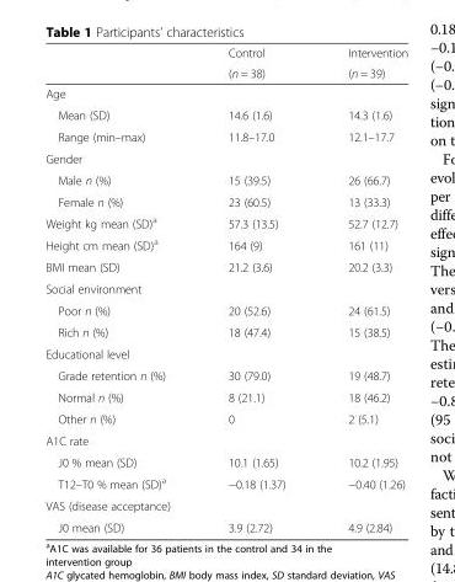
<table><thead><tr><td rowspan="2"></td><td rowspan="2">Control (n = 38)</td><td rowspan="2">Intervention (n = 39)</td></tr><tr></tr></thead><tbody><tr><td colspan="3">Age</td></tr><tr><td>Mean (SD)</td><td>14.6 (1.6)</td><td>14.3 (1.6)</td></tr><tr><td>Range (min–max)</td><td>11.8–17.0</td><td>12.1–17.7</td></tr><tr><td colspan="3">Gender</td></tr><tr><td>Male n (%)</td><td>15 (39.5)</td><td>26 (66.7)</td></tr><tr><td>Female n (%)</td><td>23 (60.5)</td><td>13 (33.3)</td></tr><tr><td>Weight kg mean (SD)<sup>a</sup></td><td>57.3 (13.5)</td><td>52.7 (12.7)</td></tr><tr><td>Height cm mean (SD)<sup>a</sup></td><td>164 (9)</td><td>161 (11)</td></tr><tr><td>BMI mean (SD)</td><td>21.2 (3.6)</td><td>20.2 (3.3)</td></tr><tr><td colspan="3">Social environment</td></tr><tr><td>Poor n (%)</td><td>20 (52.6)</td><td>24 (61.5)</td></tr><tr><td>Rich n (%)</td><td>18 (47.4)</td><td>15 (38.5)</td></tr><tr><td colspan="3">Educational level</td></tr><tr><td>Grade retention n (%)</td><td>30 (79.0)</td><td>19 (48.7)</td></tr><tr><td>Normal n (%)</td><td>8 (21.1)</td><td>18 (46.2)</td></tr><tr><td>Other n (%)</td><td>0</td><td>2 (5.1)</td></tr><tr><td colspan="3">A1C rate</td></tr><tr><td>J0 % mean (SD)</td><td>10.1 (1.65)</td><td>10.2 (1.95)</td></tr><tr><td>T12–T0 % mean (SD)<sup>a</sup></td><td>−0.18 (1.37)</td><td>−0.40 (1.26)</td></tr><tr><td colspan="3">VAS (disease acceptance)</td></tr><tr><td>J0 mean (SD)</td><td>3.9 (2.72)</td><td>4.9 (2.84)</td></tr></tbody></table>